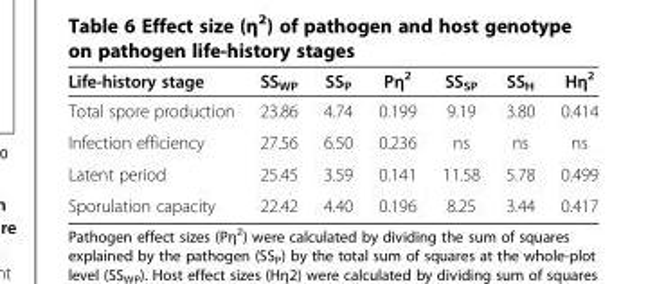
<table><thead><tr><td>Life-history stage</td><td>SS<sub>WP</sub></td><td>SS<sub>P</sub></td><td>Pη<sup>2</sup></td><td>SS<sub>SP</sub></td><td>SS<sub>H</sub></td><td>Hη<sup>2</sup></td></tr></thead><tbody><tr><td>Total spore production</td><td>23.86</td><td>4.74</td><td>0.199</td><td>9.19</td><td>3.80</td><td>0.414</td></tr><tr><td>Infection efficiency</td><td>27.56</td><td>6.50</td><td>0.236</td><td>ns</td><td>ns</td><td>ns</td></tr><tr><td>Latent period</td><td>25.45</td><td>3.59</td><td>0.141</td><td>11.58</td><td>5.78</td><td>0.499</td></tr><tr><td>Sporulation capacity</td><td>22.42</td><td>4.40</td><td>0.196</td><td>8.25</td><td>3.44</td><td>0.417</td></tr></tbody></table>